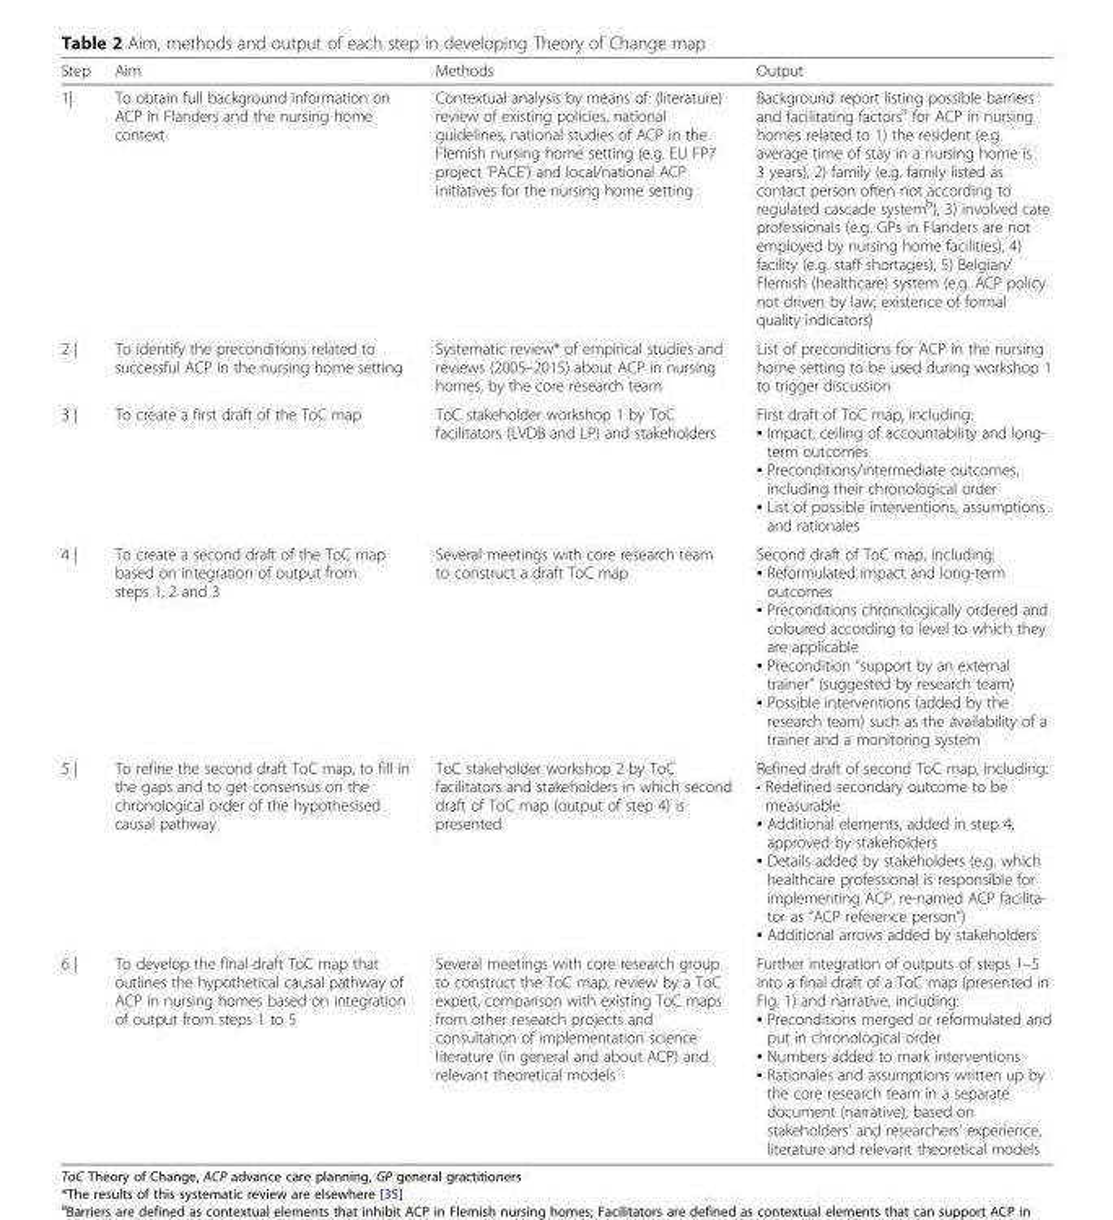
<table><thead><tr><td>Step</td><td>Aim</td><td>Methods</td><td>Output</td></tr></thead><tbody><tr><td>1|</td><td>To obtain full background information on ACP in Flanders and the nursing home context</td><td>Contextual analysis by means of: (literature) review of existing policies, national guidelines, national studies of ACP in the Flemish nursing home setting (e.g. EU FP7 project &#x27;PACE&#x27;) and local/national ACP initiatives for the nursing home setting</td><td>Background report listing possible barriers and facilitating factors<sup>a</sup> for ACP in nursing homes related to 1) the resident (e.g. average time of stay in a nursing home is 3 years), 2) family (e.g. family listed as contact person often not according to regulated cascade system<sup>b</sup>), 3) involved care professionals (e.g. GPs in Flanders are not employed by nursing home facilities), 4) facility (e.g. staff shortages), 5) Belgian/ Flemish (healthcare) system (e.g. ACP policy not driven by law; existence of formal quality indicators)</td></tr><tr><td>2 |</td><td>To identify the preconditions related to successful ACP in the nursing home setting</td><td>Systematic review* of empirical studies and reviews (2005–2015) about ACP in nursing homes, by the core research team</td><td>List of preconditions for ACP in the nursing home setting to be used during workshop 1 to trigger discussion</td></tr><tr><td>3 |</td><td>To create a first draft of the ToC map</td><td>ToC stakeholder workshop 1 by ToC facilitators (LVDB and LP) and stakeholders</td><td>First draft of ToC map, including: ▪ Impact, ceiling of accountability and long- term outcomes ▪ Preconditions/intermediate outcomes, including their chronological order ▪ List of possible interventions, assumptions and rationales</td></tr><tr><td>4 |</td><td>To create a second draft of the ToC map based on integration of output from steps 1, 2 and 3</td><td>Several meetings with core research team to construct a draft ToC map</td><td>Second draft of ToC map, including: ▪ Reformulated impact and long-term outcomes ▪ Preconditions chronologically ordered and coloured according to level to which they are applicable ▪ Precondition “support by an external trainer” (suggested by research team) ▪ Possible interventions (added by the research team) such as the availability of a trainer and a monitoring system</td></tr><tr><td>5 |</td><td>To refine the second draft ToC map, to fill in the gaps and to get consensus on the chronological order of the hypothesised causal pathway</td><td>ToC stakeholder workshop 2 by ToC facilitators and stakeholders in which second draft of ToC map (output of step 4) is presented</td><td>Refined draft of second ToC map, including: • Redefined secondary outcome to be measurable ▪ Additional elements, added in step 4, approved by stakeholders ▪ Details added by stakeholders (e.g. which healthcare professional is responsible for implementing ACP, re-named ACP facilita- tor as “ACP reference person”) ▪ Additional arrows added by stakeholders</td></tr><tr><td>6 |</td><td>To develop the final draft ToC map that outlines the hypothetical causal pathway of ACP in nursing homes based on integration of output from steps 1 to 5</td><td>Several meetings with core research group to construct the ToC map, review by a ToC expert, comparison with existing ToC maps from other research projects and consultation of implementation science literature (in general and about ACP) and relevant theoretical models</td><td>Further integration of outputs of steps 1–5 into a final draft of a ToC map (presented in Fig. 1) and narrative, including: ▪ Preconditions merged or reformulated and put in chronological order ▪ Numbers added to mark interventions ▪ Rationales and assumptions written up by the core research team in a separate document (narrative), based on stakeholders’ and researchers’ experience, literature and relevant theoretical models</td></tr></tbody></table>